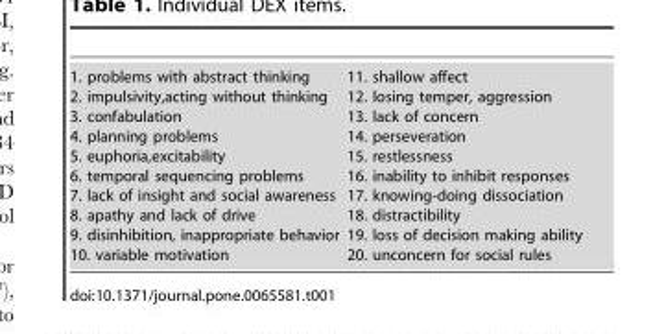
<table><tbody><tr><td>1. problems with abstract thinking 2. impulsivity,acting without thinking 3. confabulation 4. planning problems 5. euphoria,excitability 6. temporal sequencing problems 7. lack of insight and social awareness 8. apathy and lack of drive 9. disinhibition, inappropriate behavior 10. variable motivation</td><td>11. shallow affect 12. losing temper, aggression 13. lack of concern 14. perseveration 15. restlessness 16. inability to inhibit responses 17. knowing-doing dissociation 18. distractibility 19. loss of decision making ability 20. unconcern for social rules</td></tr></tbody></table>